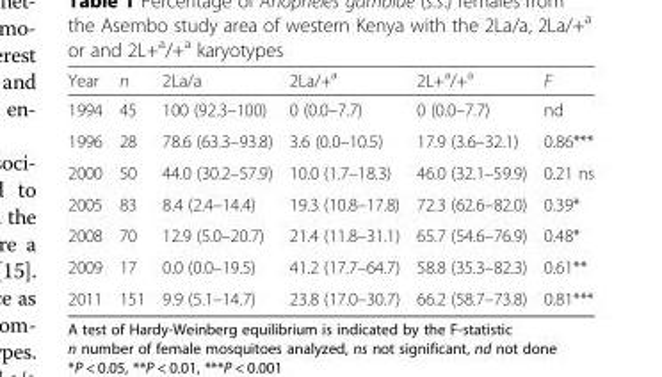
<table><thead><tr><td>Year</td><td>n</td><td>2La/a</td><td>2La/+<sup>a</sup></td><td>2L+<sup>a</sup>/+<sup>a</sup></td><td>F</td></tr></thead><tbody><tr><td>1994</td><td>45</td><td>100 (92.3–100)</td><td>0 (0.0–7.7)</td><td>0 (0.0–7.7)</td><td>nd</td></tr><tr><td>1996</td><td>28</td><td>78.6 (63.3–93.8)</td><td>3.6 (0.0–10.5)</td><td>17.9 (3.6–32.1)</td><td>0.86***</td></tr><tr><td>2000</td><td>50</td><td>44.0 (30.2–57.9)</td><td>10.0 (1.7–18.3)</td><td>46.0 (32.1–59.9)</td><td>0.21 ns</td></tr><tr><td>2005</td><td>83</td><td>8.4 (2.4–14.4)</td><td>19.3 (10.8–17.8)</td><td>72.3 (62.6–82.0)</td><td>0.39*</td></tr><tr><td>2008</td><td>70</td><td>12.9 (5.0–20.7)</td><td>21.4 (11.8–31.1)</td><td>65.7 (54.6–76.9)</td><td>0.48*</td></tr><tr><td>2009</td><td>17</td><td>0.0 (0.0–19.5)</td><td>41.2 (17.7–64.7)</td><td>58.8 (35.3–82.3)</td><td>0.61**</td></tr><tr><td>2011</td><td>151</td><td>9.9 (5.1–14.7)</td><td>23.8 (17.0–30.7)</td><td>66.2 (58.7–73.8)</td><td>0.81***</td></tr></tbody></table>